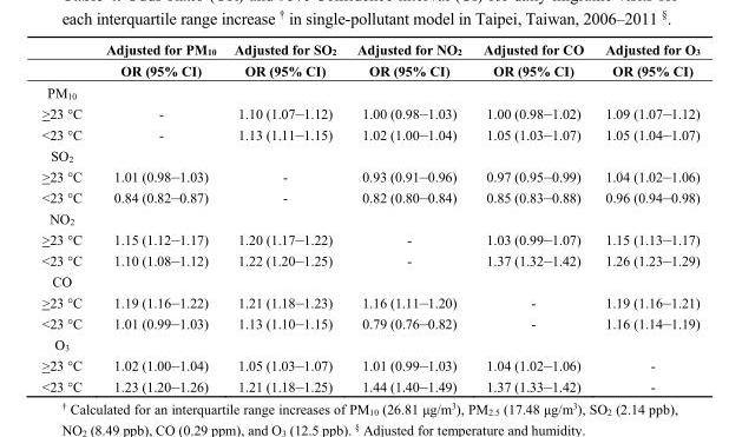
<table><thead><tr><td rowspan="2"></td><td rowspan="2">Adjusted for PM<sub>10</sub> OR (95% CI)</td><td rowspan="2">Adjusted for SO<sub>2</sub> OR (95% CI)</td><td rowspan="2">Adjusted for NO<sub>2</sub> OR (95% CI)</td><td rowspan="2">Adjusted for CO OR (95% CI)</td><td rowspan="2">Adjusted for O<sub>3</sub> OR (95% CI)</td></tr><tr></tr></thead><tbody><tr><td colspan="6">PM<sub>10</sub></td></tr><tr><td>&gt;23 °C</td><td>-</td><td>1.10 (1.07–1.12)</td><td>1.00 (0.98–1.03)</td><td>1.00 (0.98–1.02)</td><td>1.09 (1.07–1.12)</td></tr><tr><td>&lt;23 °C</td><td>-</td><td>1.13 (1.11–1.15)</td><td>1.02 (1.00–1.04)</td><td>1.05 (1.03–1.07)</td><td>1.05 (1.04–1.07)</td></tr><tr><td colspan="6">SO<sub>2</sub></td></tr><tr><td>&gt;23 °C</td><td>1.01 (0.98–1.03)</td><td>-</td><td>0.93 (0.91–0.96)</td><td>0.97 (0.95–0.99)</td><td>1.04 (1.02–1.06)</td></tr><tr><td>&lt;23 °C</td><td>0.84 (0.82–0.87)</td><td>-</td><td>0.82 (0.80–0.84)</td><td>0.85 (0.83–0.88)</td><td>0.96 (0.94–0.98)</td></tr><tr><td colspan="6">NO<sub>2</sub></td></tr><tr><td>&gt;23 °C</td><td>1.15 (1.12–1.17)</td><td>1.20 (1.17–1.22)</td><td>-</td><td>1.03 (0.99–1.07)</td><td>1.15 (1.13–1.17)</td></tr><tr><td>&lt;23 °C</td><td>1.10 (1.08–1.12)</td><td>1.22 (1.20–1.25)</td><td>-</td><td>1.37 (1.32–1.42)</td><td>1.26 (1.23–1.29)</td></tr><tr><td colspan="6">CO</td></tr><tr><td>&gt;23 °C</td><td>1.19 (1.16–1.22)</td><td>1.21 (1.18–1.23)</td><td>1.16 (1.11–1.20)</td><td>-</td><td>1.19 (1.16–1.21)</td></tr><tr><td>&lt;23 °C</td><td>1.01 (0.99–1.03)</td><td>1.13 (1.10–1.15)</td><td>0.79 (0.76–0.82)</td><td>-</td><td>1.16 (1.14–1.19)</td></tr><tr><td colspan="6">O<sub>3</sub></td></tr><tr><td>&gt;23 °C</td><td>1.02 (1.00–1.04)</td><td>1.05 (1.03–1.07)</td><td>1.01 (0.99–1.03)</td><td>1.04 (1.02–1.06)</td><td>-</td></tr><tr><td>&lt;23 °C</td><td>1.23 (1.20–1.26)</td><td>1.21 (1.18–1.25)</td><td>1.44 (1.40–1.49)</td><td>1.37 (1.33–1.42)</td><td>-</td></tr></tbody></table>